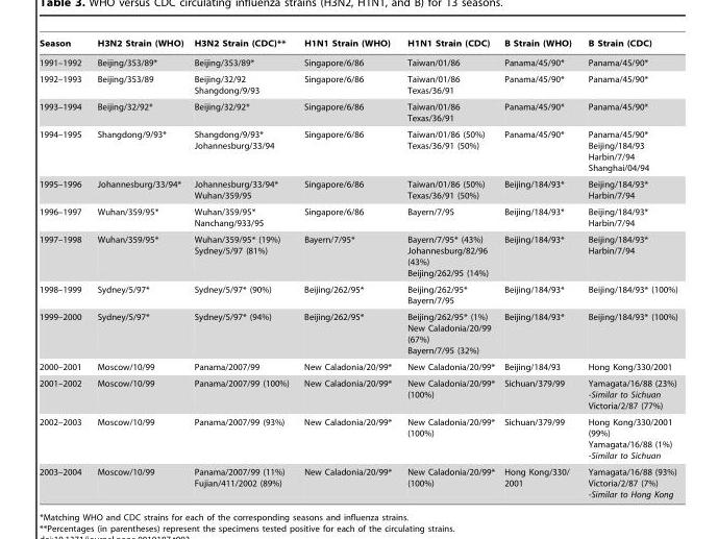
<table><thead><tr><td>Season</td><td>H3N2 Strain (WHO)</td><td>H3N2 Strain (CDC)**</td><td>H1N1 Strain (WHO)</td><td>H1N1 Strain (CDC)</td><td>B Strain (WHO)</td><td>B Strain (CDC)</td></tr></thead><tbody><tr><td>1991–1992</td><td>Beijing/353/89*</td><td>Beijing/353/89*</td><td>Singapore/6/86</td><td>Taiwan/01/86</td><td>Panama/45/90*</td><td>Panama/45/90*</td></tr><tr><td>1992–1993</td><td>Beijing/353/89</td><td>Beijing/32/92 Shangdong/9/93</td><td>Singapore/6/86</td><td>Taiwan/01/86 Texas/36/91</td><td>Panama/45/90*</td><td>Panama/45/90*</td></tr><tr><td>1993–1994</td><td>Beijing/32/92*</td><td>Beijing/32/92*</td><td>Singapore/6/86</td><td>Taiwan/01/86 Texas/36/91</td><td>Panama/45/90*</td><td>Panama/45/90*</td></tr><tr><td>1994–1995</td><td>Shangdong/9/93*</td><td>Shangdong/9/93* Johannesburg/33/94</td><td>Singapore/6/86</td><td>Taiwan/01/86 (50%) Texas/36/91 (50%)</td><td>Panama/45/90*</td><td>Panama/45/90* Beijing/184/93 Harbin/7/94 Shanghai/04/94</td></tr><tr><td>1995–1996</td><td>Johannesburg/33/94*</td><td>Johannesburg/33/94* Wuhan/359/95</td><td>Singapore/6/86</td><td>Taiwan/01/86 (50%) Texas/36/91 (50%)</td><td>Beijing/184/93*</td><td>Beijing/184/93* Harbin/7/94</td></tr><tr><td>1996–1997</td><td>Wuhan/359/95*</td><td>Wuhan/359/95* Nanchang/933/95</td><td>Singapore/6/86</td><td>Bayern/7/95</td><td>Beijing/184/93*</td><td>Beijing/184/93* Harbin/7/94</td></tr><tr><td>1997–1998</td><td>Wuhan/359/95*</td><td>Wuhan/359/95* (19%) Sydney/5/97 (81%)</td><td>Bayern/7/95*</td><td>Bayern/7/95* (43%) Johannesburg/82/96 (43%) Beijing/262/95 (14%)</td><td>Beijing/184/93*</td><td>Beijing/184/93* Harbin/7/94</td></tr><tr><td>1998–1999</td><td>Sydney/5/97*</td><td>Sydney/5/97* (90%)</td><td>Beijing/262/95*</td><td>Beijing/262/95* Bayern/7/95</td><td>Beijing/184/93*</td><td>Beijing/184/93* (100%)</td></tr><tr><td>1999–2000</td><td>Sydney/5/97*</td><td>Sydney/5/97* (94%)</td><td>Beijing/262/95*</td><td>Beijing/262/95* (1%) New Caladonia/20/99 (67%) Bayern/7/95 (32%)</td><td>Beijing/184/93*</td><td>Beijing/184/93* (100%)</td></tr><tr><td>2000–2001</td><td>Moscow/10/99</td><td>Panama/2007/99</td><td>New Caladonia/20/99*</td><td>New Caladonia/20/99*</td><td>Beijing/184/93</td><td>Hong Kong/330/2001</td></tr><tr><td>2001–2002</td><td>Moscow/10/99</td><td>Panama/2007/99 (100%)</td><td>New Caladonia/20/99*</td><td>New Caladonia/20/99* (100%)</td><td>Sichuan/379/99</td><td>Yamagata/16/88 (23%) -Similar to Sichuan Victoria/2/87 (77%)</td></tr><tr><td>2002–2003</td><td>Moscow/10/99</td><td>Panama/2007/99 (93%)</td><td>New Caladonia/20/99*</td><td>New Caladonia/20/99* (100%)</td><td>Sichuan/379/99</td><td>Hong Kong/330/2001 (99%) Yamagata/16/88 (1%) -Similar to Sichuan</td></tr><tr><td>2003–2004</td><td>Moscow/10/99</td><td>Panama/2007/99 (11%) Fujian/411/2002 (89%)</td><td>New Caladonia/20/99*</td><td>New Caladonia/20/99* (100%)</td><td>Hong Kong/330/ 2001</td><td>Yamagata/16/88 (93%) Victoria/2/87 (7%) -Similar to Hong Kong</td></tr></tbody></table>